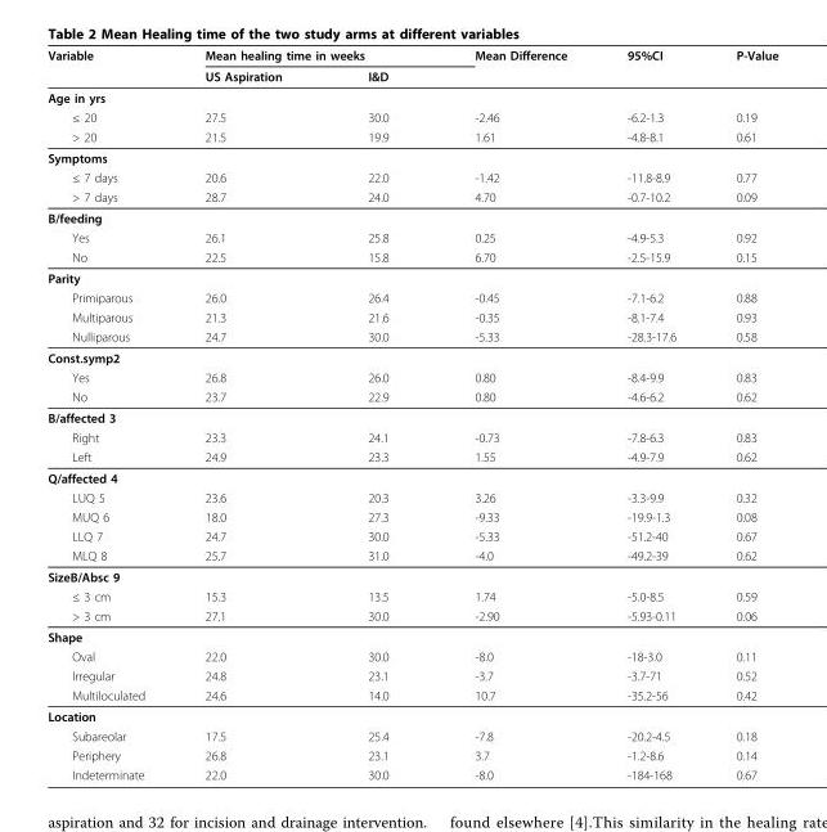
<table><thead><tr><td rowspan="2">Variable</td><td colspan="2">Mean healing time in weeks</td><td rowspan="2">Mean Difference</td><td rowspan="2">95%CI</td><td rowspan="2">P-Value</td></tr><tr><td>US Aspiration</td><td>I&amp;D</td></tr></thead><tbody><tr><td colspan="6">Age in yrs</td></tr><tr><td>≤ 20</td><td>27.5</td><td>30.0</td><td>-2.46</td><td>-6.2-1.3</td><td>0.19</td></tr><tr><td>&gt; 20</td><td>21.5</td><td>19.9</td><td>1.61</td><td>-4.8-8.1</td><td>0.61</td></tr><tr><td colspan="6">Symptoms</td></tr><tr><td>≤ 7 days</td><td>20.6</td><td>22.0</td><td>-1.42</td><td>-11.8-8.9</td><td>0.77</td></tr><tr><td>&gt; 7 days</td><td>28.7</td><td>24.0</td><td>4.70</td><td>-0.7-10.2</td><td>0.09</td></tr><tr><td colspan="6">B/feeding</td></tr><tr><td>Yes</td><td>26.1</td><td>25.8</td><td>0.25</td><td>-4.9-5.3</td><td>0.92</td></tr><tr><td>No</td><td>22.5</td><td>15.8</td><td>6.70</td><td>-2.5-15.9</td><td>0.15</td></tr><tr><td colspan="6">Parity</td></tr><tr><td>Primiparous</td><td>26.0</td><td>26.4</td><td>-0.45</td><td>-7.1-6.2</td><td>0.88</td></tr><tr><td>Multiparous</td><td>21.3</td><td>21.6</td><td>-0.35</td><td>-8.1-7.4</td><td>0.93</td></tr><tr><td>Nulliparous</td><td>24.7</td><td>30.0</td><td>-5.33</td><td>-28.3-17.6</td><td>0.58</td></tr><tr><td colspan="6">Const.symp2</td></tr><tr><td>Yes</td><td>26.8</td><td>26.0</td><td>0.80</td><td>-8.4-9.9</td><td>0.83</td></tr><tr><td>No</td><td>23.7</td><td>22.9</td><td>0.80</td><td>-4.6-6.2</td><td>0.62</td></tr><tr><td colspan="6">B/affected 3</td></tr><tr><td>Right</td><td>23.3</td><td>24.1</td><td>-0.73</td><td>-7.8-6.3</td><td>0.83</td></tr><tr><td>Left</td><td>24.9</td><td>23.3</td><td>1.55</td><td>-4.9-7.9</td><td>0.62</td></tr><tr><td colspan="6">Q/affected 4</td></tr><tr><td>LUQ 5</td><td>23.6</td><td>20.3</td><td>3.26</td><td>-3.3-9.9</td><td>0.32</td></tr><tr><td>MUQ 6</td><td>18.0</td><td>27.3</td><td>-9.33</td><td>-19.9-1.3</td><td>0.08</td></tr><tr><td>LLQ 7</td><td>24.7</td><td>30.0</td><td>-5.33</td><td>-51.2-40</td><td>0.67</td></tr><tr><td>MLQ 8</td><td>25.7</td><td>31.0</td><td>-4.0</td><td>-49.2-39</td><td>0.62</td></tr><tr><td colspan="6">SizeB/Absc 9</td></tr><tr><td>≤ 3 cm</td><td>15.3</td><td>13.5</td><td>1.74</td><td>-5.0-8.5</td><td>0.59</td></tr><tr><td>&gt; 3 cm</td><td>27.1</td><td>30.0</td><td>-2.90</td><td>-5.93-0.11</td><td>0.06</td></tr><tr><td colspan="6">Shape</td></tr><tr><td>Oval</td><td>22.0</td><td>30.0</td><td>-8.0</td><td>-18-3.0</td><td>0.11</td></tr><tr><td>Irregular</td><td>24.8</td><td>23.1</td><td>-3.7</td><td>-3.7-71</td><td>0.52</td></tr><tr><td>Multiloculated</td><td>24.6</td><td>14.0</td><td>10.7</td><td>-35.2-56</td><td>0.42</td></tr><tr><td colspan="6">Location</td></tr><tr><td>Subareolar</td><td>17.5</td><td>25.4</td><td>-7.8</td><td>-20.2-4.5</td><td>0.18</td></tr><tr><td>Periphery</td><td>26.8</td><td>23.1</td><td>3.7</td><td>-1.2-8.6</td><td>0.14</td></tr><tr><td>Indeterminate</td><td>22.0</td><td>30.0</td><td>-8.0</td><td>-184-168</td><td>0.67</td></tr></tbody></table>